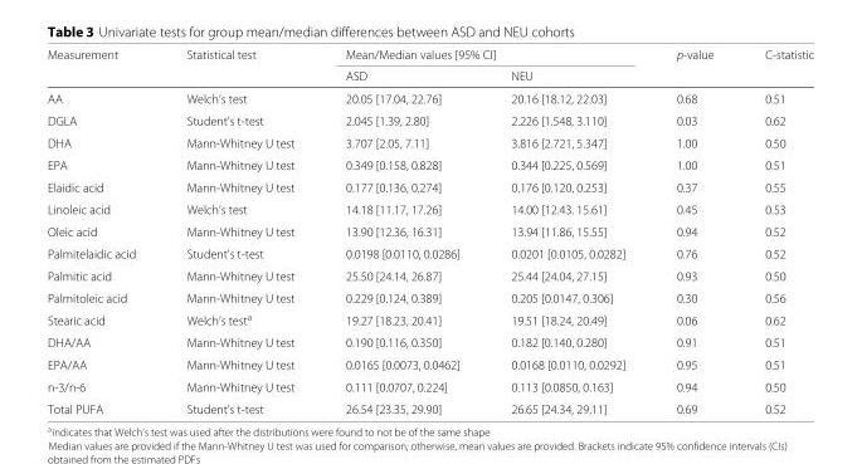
<table><thead><tr><td rowspan="2">Measurement</td><td rowspan="2">Statistical test</td><td colspan="2">Mean/Median values [95% CI]</td><td rowspan="2">p-value</td><td rowspan="2">C-statistic</td></tr><tr><td>ASD</td><td>NEU</td></tr></thead><tbody><tr><td>AA</td><td>Welch’s test</td><td>20.05 [17.04, 22.76]</td><td>20.16 [18.12, 22.03]</td><td>0.68</td><td>0.51</td></tr><tr><td>DGLA</td><td>Student’s t-test</td><td>2.045 [1.39, 2.80]</td><td>2.226 [1.548, 3.110]</td><td>0.03</td><td>0.62</td></tr><tr><td>DHA</td><td>Mann-Whitney U test</td><td>3.707 [2.05, 7.11]</td><td>3.816 [2.721, 5.347]</td><td>1.00</td><td>0.50</td></tr><tr><td>EPA</td><td>Mann-Whitney U test</td><td>0.349 [0.158, 0.828]</td><td>0.344 [0.225, 0.569]</td><td>1.00</td><td>0.51</td></tr><tr><td>Elaidic acid</td><td>Mann-Whitney U test</td><td>0.177 [0.136, 0.274]</td><td>0.176 [0.120, 0.253]</td><td>0.37</td><td>0.55</td></tr><tr><td>Linoleic acid</td><td>Welch’s test</td><td>14.18 [11.17, 17.26]</td><td>14.00 [12.43. 15.61]</td><td>0.45</td><td>0.53</td></tr><tr><td>Oleic acid</td><td>Mann-Whitney U test</td><td>13.90 [12.36, 16.31]</td><td>13.94 [11.86, 15.55]</td><td>0.94</td><td>0.52</td></tr><tr><td>Palmitelaidic acid</td><td>Student’s t-test</td><td>0.0198 [0.0110, 0.0286]</td><td>0.0201 [0.0105, 0.0282]</td><td>0.76</td><td>0.52</td></tr><tr><td>Palmitic acid</td><td>Mann-Whitney U test</td><td>25.50 [24.14, 26.87]</td><td>25.44 [24.04, 27.15]</td><td>0.93</td><td>0.50</td></tr><tr><td>Palmitoleic acid</td><td>Mann-Whitney U test</td><td>0.229 [0.124, 0.389]</td><td>0.205 [0.0147, 0.306]</td><td>0.30</td><td>0.56</td></tr><tr><td>Stearic acid</td><td>Welch’s test<sup>a</sup></td><td>19.27 [18.23, 20.41]</td><td>19.51 [18.24, 20.49]</td><td>0.06</td><td>0.62</td></tr><tr><td>DHA/AA</td><td>Mann-Whitney U test</td><td>0.190 [0.116, 0.350]</td><td>0.182 [0.140, 0.280]</td><td>0.91</td><td>0.51</td></tr><tr><td>EPA/AA</td><td>Mann-Whitney U test</td><td>0.0165 [0.0073, 0.0462]</td><td>0.0168 [0.0110, 0.0292]</td><td>0.95</td><td>0.51</td></tr><tr><td>n-3/n-6</td><td>Mann-Whitney U test</td><td>0.111 [0.0707, 0.224]</td><td>0.113 [0.0850, 0.163]</td><td>0.94</td><td>0.50</td></tr><tr><td>Total PUFA</td><td>Student’s t-test</td><td>26.54 [23.35, 29.90]</td><td>26.65 [24.34, 29.11]</td><td>0.69</td><td>0.52</td></tr></tbody></table>